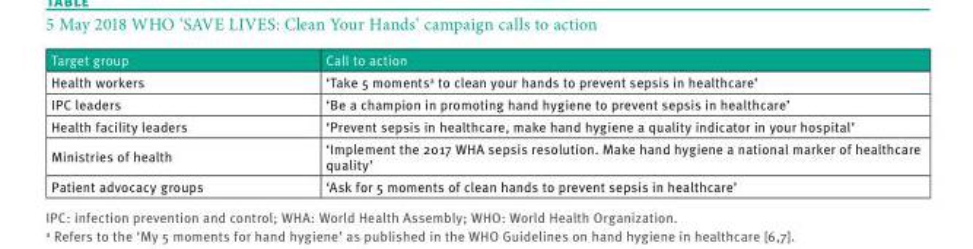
<table><thead><tr><td>Target group</td><td>Call to action</td></tr></thead><tbody><tr><td>Health workers</td><td>‘Take 5 moments<sup>a</sup> to clean your hands to prevent sepsis in healthcare’</td></tr><tr><td>IPC leaders</td><td>‘Be a champion in promoting hand hygiene to prevent sepsis in healthcare’</td></tr><tr><td>Health facility leaders</td><td>‘Prevent sepsis in healthcare, make hand hygiene a quality indicator in your hospital’</td></tr><tr><td>Ministries of health</td><td>‘Implement the 2017 WHA sepsis resolution. Make hand hygiene a national marker of healthcare quality’</td></tr><tr><td>Patient advocacy groups</td><td>‘Ask for 5 moments of clean hands to prevent sepsis in healthcare’</td></tr></tbody></table>